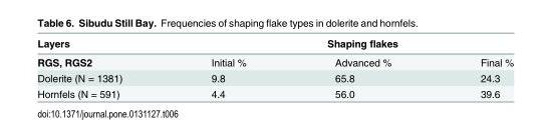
<table><thead><tr><td rowspan="2">Layers RGS, RGS2</td><td colspan="3">Shaping flakes</td></tr><tr><td>Initial %</td><td>Advanced %</td><td>Final %</td></tr></thead><tbody><tr><td>Dolerite (N = 1381)</td><td>9.8</td><td>65.8</td><td>24.3</td></tr><tr><td>Hornfels (N = 591)</td><td>4.4</td><td>56.0</td><td>39.6</td></tr></tbody></table>